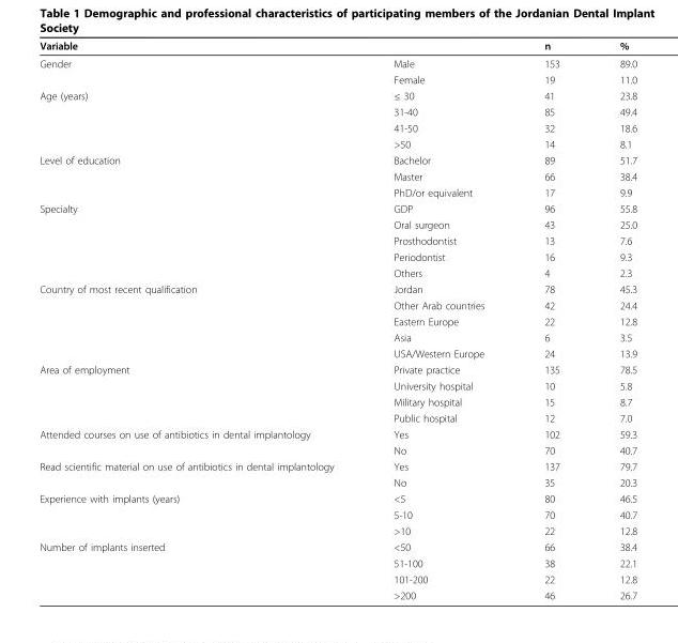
<table><thead><tr><td>Variable</td><td></td><td>n</td><td>%</td></tr></thead><tbody><tr><td rowspan="2">Gender</td><td>Male</td><td>153</td><td>89.0</td></tr><tr><td>Female</td><td>19</td><td>11.0</td></tr><tr><td rowspan="4">Age (years)</td><td>≤ 30</td><td>41</td><td>23.8</td></tr><tr><td>31-40</td><td>85</td><td>49.4</td></tr><tr><td>41-50</td><td>32</td><td>18.6</td></tr><tr><td>&gt;50</td><td>14</td><td>8.1</td></tr><tr><td rowspan="3">Level of education</td><td>Bachelor</td><td>89</td><td>51.7</td></tr><tr><td>Master</td><td>66</td><td>38.4</td></tr><tr><td>PhD/or equivalent</td><td>17</td><td>9.9</td></tr><tr><td rowspan="5">Specialty</td><td>GDP</td><td>96</td><td>55.8</td></tr><tr><td>Oral surgeon</td><td>43</td><td>25.0</td></tr><tr><td>Prosthodontist</td><td>13</td><td>7.6</td></tr><tr><td>Periodontist</td><td>16</td><td>9.3</td></tr><tr><td>Others</td><td>4</td><td>2.3</td></tr><tr><td rowspan="5">Country of most recent qualification</td><td>Jordan</td><td>78</td><td>45.3</td></tr><tr><td>Other Arab countries</td><td>42</td><td>24.4</td></tr><tr><td>Eastern Europe</td><td>22</td><td>12.8</td></tr><tr><td>Asia</td><td>6</td><td>3.5</td></tr><tr><td>USA/Western Europe</td><td>24</td><td>13.9</td></tr><tr><td rowspan="4">Area of employment</td><td>Private practice</td><td>135</td><td>78.5</td></tr><tr><td>University hospital</td><td>10</td><td>5.8</td></tr><tr><td>Military hospital</td><td>15</td><td>8.7</td></tr><tr><td>Public hospital</td><td>12</td><td>7.0</td></tr><tr><td rowspan="2">Attended courses on use of antibiotics in dental implantology</td><td>Yes</td><td>102</td><td>59.3</td></tr><tr><td>No</td><td>70</td><td>40.7</td></tr><tr><td rowspan="2">Read scientific material on use of antibiotics in dental implantology</td><td>Yes</td><td>137</td><td>79.7</td></tr><tr><td>No</td><td>35</td><td>20.3</td></tr><tr><td rowspan="3">Experience with implants (years)</td><td>&lt;5</td><td>80</td><td>46.5</td></tr><tr><td>5-10</td><td>70</td><td>40.7</td></tr><tr><td>&gt;10</td><td>22</td><td>12.8</td></tr><tr><td rowspan="4">Number of implants inserted</td><td>&lt;50</td><td>66</td><td>38.4</td></tr><tr><td>51-100</td><td>38</td><td>22.1</td></tr><tr><td>101-200</td><td>22</td><td>12.8</td></tr><tr><td>&gt;200</td><td>46</td><td>26.7</td></tr></tbody></table>